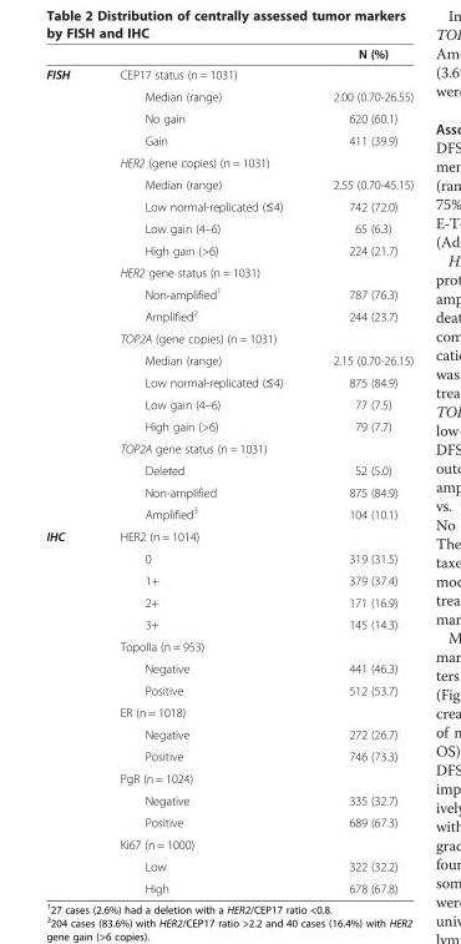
<table><thead><tr><td></td><td></td><td>N (%)</td></tr></thead><tbody><tr><td rowspan="21">FISH</td><td>CEP17 status (n = 1031)</td><td></td></tr><tr><td>Median (range)</td><td>2.00 (0.70-26.55)</td></tr><tr><td>No gain</td><td>620 (60.1)</td></tr><tr><td>Gain</td><td>411 (39.9)</td></tr><tr><td>HER2 (gene copies) (n = 1031)</td><td></td></tr><tr><td>Median (range)</td><td>2.55 (0.70-45.15)</td></tr><tr><td>Low normal-replicated (≤4)</td><td>742 (72.0)</td></tr><tr><td>Low gain (4–6)</td><td>65 (6.3)</td></tr><tr><td>High gain (&gt;6)</td><td>224 (21.7)</td></tr><tr><td>HER2 gene status (n = 1031)</td><td></td></tr><tr><td>Non-amplified<sup>1</sup></td><td>787 (76.3)</td></tr><tr><td>Amplified<sup>2</sup></td><td>244 (23.7)</td></tr><tr><td>TOP2A (gene copies) (n = 1031)</td><td></td></tr><tr><td>Median (range)</td><td>2.15 (0.70-26.15)</td></tr><tr><td>Low normal-replicated (≤4)</td><td>875 (84.9)</td></tr><tr><td>Low gain (4–6)</td><td>77 (7.5)</td></tr><tr><td>High gain (&gt;6)</td><td>79 (7.7)</td></tr><tr><td>TOP2A gene status (n = 1031)</td><td></td></tr><tr><td>Deleted</td><td>52 (5.0)</td></tr><tr><td>Non-amplified</td><td>875 (84.9)</td></tr><tr><td>Amplified<sup>3</sup></td><td>104 (10.1)</td></tr><tr><td rowspan="17">IHC</td><td>HER2 (n = 1014)</td><td></td></tr><tr><td>0</td><td>319 (31.5)</td></tr><tr><td>1+</td><td>379 (37.4)</td></tr><tr><td>2+</td><td>171 (16.9)</td></tr><tr><td>3+</td><td>145 (14.3)</td></tr><tr><td>TopoIIa (n = 953)</td><td></td></tr><tr><td>Negative</td><td>441 (46.3)</td></tr><tr><td>Positive</td><td>512 (53.7)</td></tr><tr><td>ER (n = 1018)</td><td></td></tr><tr><td>Negative</td><td>272 (26.7)</td></tr><tr><td>Positive</td><td>746 (73.3)</td></tr><tr><td>PgR (n = 1024)</td><td></td></tr><tr><td>Negative</td><td>335 (32.7)</td></tr><tr><td>Positive</td><td>689 (67.3)</td></tr><tr><td>Ki67 (n = 1000)</td><td></td></tr><tr><td>Low</td><td>322 (32.2)</td></tr><tr><td>High</td><td>678 (67.8)</td></tr></tbody></table>